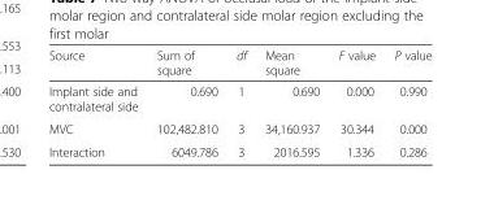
<table><thead><tr><td>Source</td><td>Sum of square</td><td>df</td><td>Mean square</td><td>F value</td><td>P value</td></tr></thead><tbody><tr><td>Implant side and contralateral side</td><td>0.690</td><td>1</td><td>0.690</td><td>0.000</td><td>0.990</td></tr><tr><td>MVC</td><td>102,482.810</td><td>3</td><td>34,160.937</td><td>30.344</td><td>0.000</td></tr><tr><td>Interaction</td><td>6049.786</td><td>3</td><td>2016.595</td><td>1.336</td><td>0.286</td></tr></tbody></table>